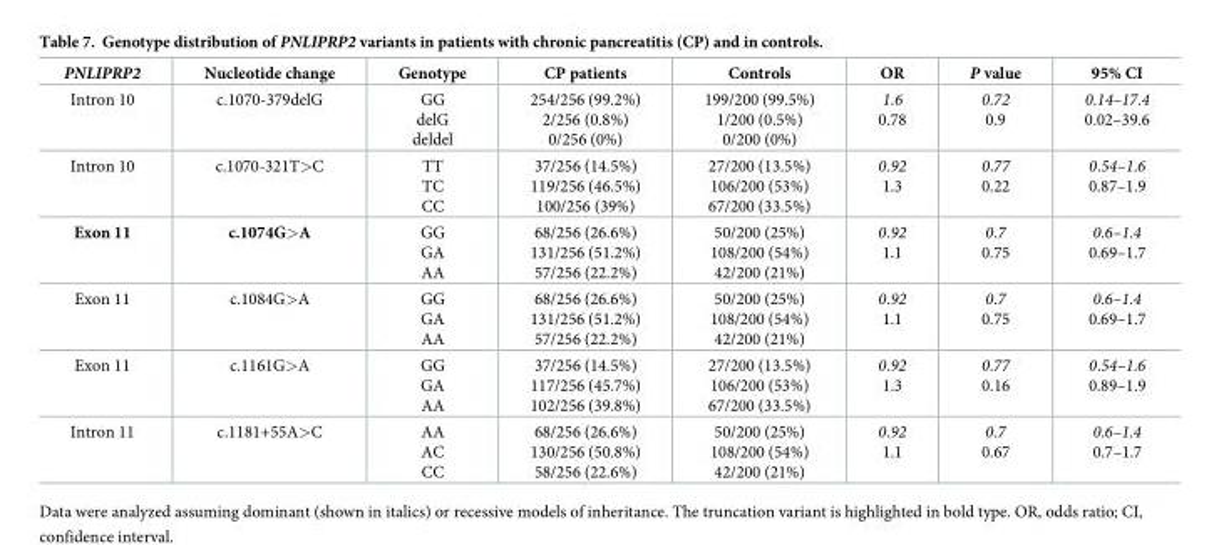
<table><thead><tr><td>PNLIPRP2</td><td>Nucleotide change</td><td>Genotype</td><td>CP patients</td><td>Controls</td><td>OR</td><td>P value</td><td>95% CI</td></tr></thead><tbody><tr><td>Intron 10</td><td>c.1070-379delG</td><td>GG delG deldel</td><td>254/256 (99.2%) 2/256 (0.8%) 0/256 (0%)</td><td>199/200 (99.5%) 1/200 (0.5%) 0/200 (0%)</td><td>1.6 0.78</td><td>0.72 0.9</td><td>0.14–17.4 0.02–39.6</td></tr><tr><td>Intron 10</td><td>c.1070-321T&gt;C</td><td>TT TC CC</td><td>37/256 (14.5%) 119/256 (46.5%) 100/256 (39%)</td><td>27/200 (13.5%) 106/200 (53%) 67/200 (33.5%)</td><td>0.92 1.3</td><td>0.77 0.22</td><td>0.54–1.6 0.87–1.9</td></tr><tr><td>Exon 11</td><td>c.1074G&gt;A</td><td>GG GA AA</td><td>68/256 (26.6%) 131/256 (51.2%) 57/256 (22.2%)</td><td>50/200 (25%) 108/200 (54%) 42/200 (21%)</td><td>0.92 1.1</td><td>0.7 0.75</td><td>0.6–1.4 0.69–1.7</td></tr><tr><td>Exon 11</td><td>c.1084G&gt;A</td><td>GG GA AA</td><td>68/256 (26.6%) 131/256 (51.2%) 57/256 (22.2%)</td><td>50/200 (25%) 108/200 (54%) 42/200 (21%)</td><td>0.92 1.1</td><td>0.7 0.75</td><td>0.6–1.4 0.69–1.7</td></tr><tr><td>Exon 11</td><td>c.1161G&gt;A</td><td>GG GA AA</td><td>37/256 (14.5%) 117/256 (45.7%) 102/256 (39.8%)</td><td>27/200 (13.5%) 106/200 (53%) 67/200 (33.5%)</td><td>0.92 1.3</td><td>0.77 0.16</td><td>0.54–1.6 0.89–1.9</td></tr><tr><td>Intron 11</td><td>c.1181+55A&gt;C</td><td>AA AC CC</td><td>68/256 (26.6%) 130/256 (50.8%) 58/256 (22.6%)</td><td>50/200 (25%) 108/200 (54%) 42/200 (21%)</td><td>0.92 1.1</td><td>0.7 0.67</td><td>0.6–1.4 0.7–1.7</td></tr></tbody></table>